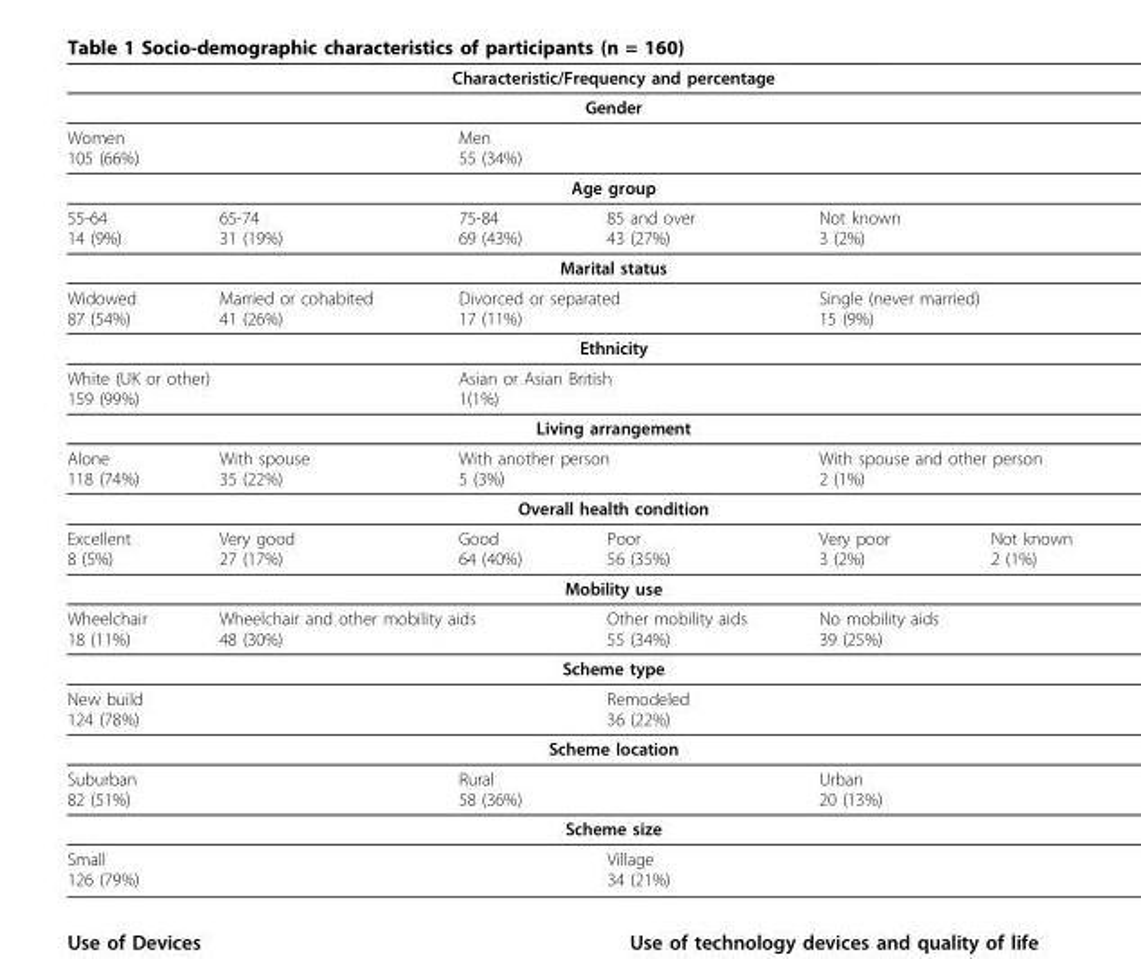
<table><thead><tr><td colspan="6">Characteristic/Frequency and percentage</td></tr></thead><tbody><tr><td colspan="6">Gender</td></tr><tr><td colspan="2">Women 105 (66%)</td><td colspan="4">Men 55 (34%)</td></tr><tr><td colspan="6">Age group</td></tr><tr><td>55-64 14 (9%)</td><td>65-74 31 (19%)</td><td>75-84 69 (43%)</td><td>85 and over 43 (27%)</td><td colspan="2">Not known 3 (2%)</td></tr><tr><td colspan="6">Marital status</td></tr><tr><td>Widowed 87 (54%)</td><td>Married or cohabited 41 (26%)</td><td colspan="2">Divorced or separated 17 (11%)</td><td colspan="2">Single (never married) 15 (9%)</td></tr><tr><td colspan="6">Ethnicity</td></tr><tr><td colspan="2">White (UK or other) 159 (99%)</td><td colspan="4">Asian or Asian British 1(1%)</td></tr><tr><td colspan="6">Living arrangement</td></tr><tr><td>Alone 118 (74%)</td><td>With spouse 35 (22%)</td><td colspan="2">With another person 5 (3%)</td><td colspan="2">With spouse and other person 2 (1%)</td></tr><tr><td colspan="6">Overall health condition</td></tr><tr><td>Excellent 8 (5%)</td><td>Very good 27 (17%)</td><td>Good 64 (40%)</td><td>Poor 56 (35%)</td><td>Very poor 3 (2%)</td><td>Not known 2 (1%)</td></tr><tr><td colspan="6">Mobility use</td></tr><tr><td>Wheelchair 18 (11%)</td><td colspan="2">Wheelchair and other mobility aids 48 (30%)</td><td>Other mobility aids 55 (34%)</td><td colspan="2">No mobility aids 39 (25%)</td></tr><tr><td colspan="6">Scheme type</td></tr><tr><td colspan="3">New build 124 (78%)</td><td colspan="3">Remodeled 36 (22%)</td></tr><tr><td colspan="6">Scheme location</td></tr><tr><td colspan="2">Suburban 82 (51%)</td><td colspan="2">Rural 58 (36%)</td><td colspan="2">Urban 20 (13%)</td></tr><tr><td colspan="6">Scheme size</td></tr><tr><td colspan="3">Small 126 (79%)</td><td colspan="3">Village 34 (21%)</td></tr></tbody></table>